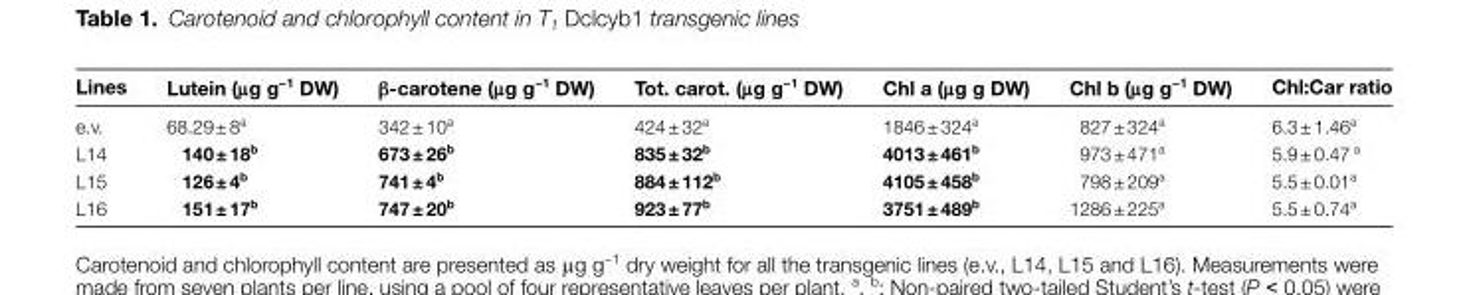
<table><thead><tr><td>Lines</td><td>Lutein (μg g<sup>−1</sup> DW)</td><td>β-carotene (μg g<sup>−1</sup> DW)</td><td>Tot. carot. (μg g<sup>−1</sup> DW)</td><td>Chl a (μg g DW)</td><td>Chl b (μg g<sup>−1</sup> DW)</td><td>Chl:Car ratio</td></tr></thead><tbody><tr><td>e.v.</td><td>68.29 ± 8<sup>a</sup></td><td>342 ± 10<sup>a</sup></td><td>424 ± 32<sup>a</sup></td><td>1846 ± 324<sup>a</sup></td><td>827 ± 324<sup>a</sup></td><td>6.3 ± 1.46<sup>a</sup></td></tr><tr><td>L14</td><td>140 ± 18<sup>b</sup></td><td>673 ± 26<sup>b</sup></td><td>835 ± 32<sup>b</sup></td><td>4013 ± 461<sup>b</sup></td><td>973 ± 471<sup>a</sup></td><td>5.9 ± 0.47 <sup>a</sup></td></tr><tr><td>L15</td><td>126 ± 4<sup>b</sup></td><td>741 ± 4<sup>b</sup></td><td>884 ± 112<sup>b</sup></td><td>4105 ± 458<sup>b</sup></td><td>798 ± 209<sup>a</sup></td><td>5.5 ± 0.01<sup>a</sup></td></tr><tr><td>L16</td><td>151 ± 17<sup>b</sup></td><td>747 ± 20<sup>b</sup></td><td>923 ± 77<sup>b</sup></td><td>3751 ± 489<sup>b</sup></td><td>1286 ± 225<sup>a</sup></td><td>5.5 ± 0.74<sup>a</sup></td></tr></tbody></table>